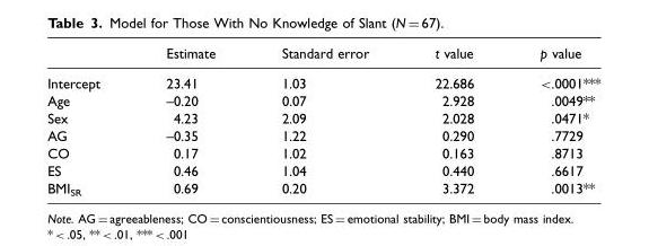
<table><thead><tr><td></td><td>Estimate</td><td>Standard error</td><td>t value</td><td>p value</td></tr></thead><tbody><tr><td>Intercept</td><td>23.41</td><td>1.03</td><td>22.686</td><td>&lt;.0001***</td></tr><tr><td>Age</td><td>–0.20</td><td>0.07</td><td>2.928</td><td>.0049**</td></tr><tr><td>Sex</td><td>4.23</td><td>2.09</td><td>2.028</td><td>.0471*</td></tr><tr><td>AG</td><td>–0.35</td><td>1.22</td><td>0.290</td><td>.7729</td></tr><tr><td>CO</td><td>0.17</td><td>1.02</td><td>0.163</td><td>.8713</td></tr><tr><td>ES</td><td>0.46</td><td>1.04</td><td>0.440</td><td>.6617</td></tr><tr><td>BMI<sub>SR</sub></td><td>0.69</td><td>0.20</td><td>3.372</td><td>.0013**</td></tr></tbody></table>